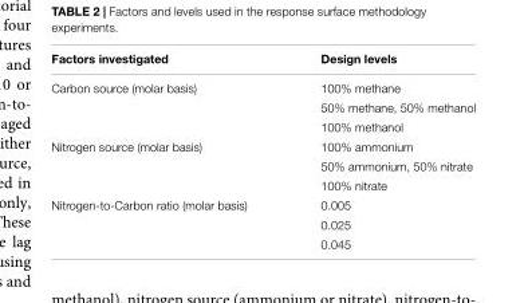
<table><thead><tr><td>Factors investigated</td><td>Design levels</td></tr></thead><tbody><tr><td rowspan="3">Carbon source (molar basis)</td><td>100% methane</td></tr><tr><td>50% methane, 50% methanol</td></tr><tr><td>100% methanol</td></tr><tr><td rowspan="3">Nitrogen source (molar basis)</td><td>100% ammonium</td></tr><tr><td>50% ammonium, 50% nitrate</td></tr><tr><td>100% nitrate</td></tr><tr><td rowspan="3">Nitrogen-to-Carbon ratio (molar basis)</td><td>0.005</td></tr><tr><td>0.025</td></tr><tr><td>0.045</td></tr></tbody></table>